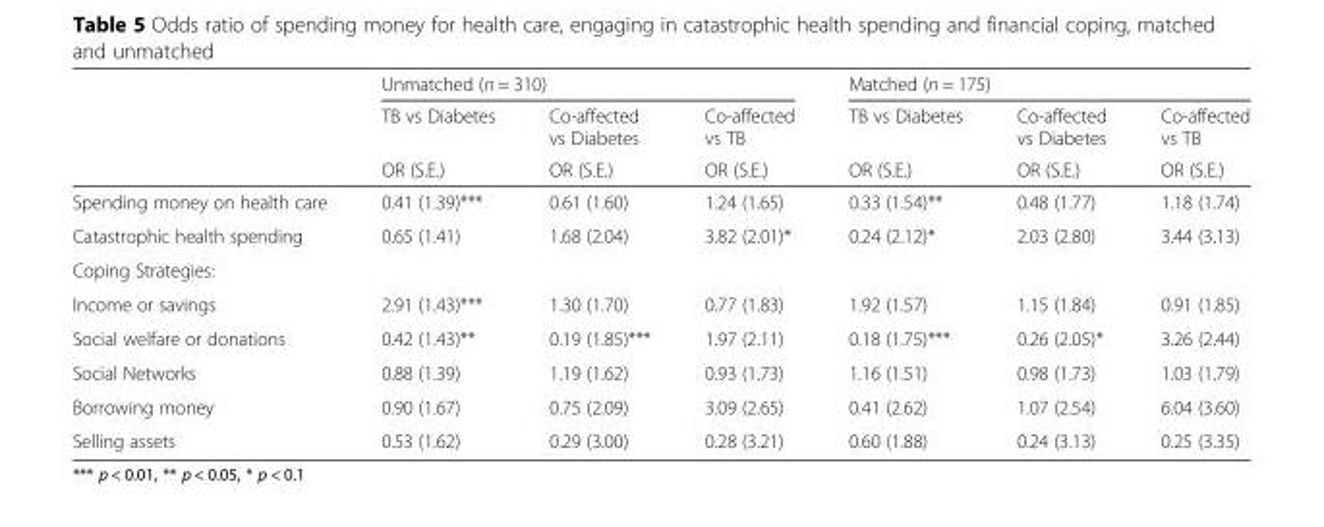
<table><thead><tr><td rowspan="3"></td><td colspan="3">Unmatched (n = 310)</td><td colspan="3">Matched (n = 175)</td></tr><tr><td rowspan="2">TB vs Diabetes OR (S.E.)</td><td rowspan="2">Co-affected vs Diabetes OR (S.E.)</td><td rowspan="2">Co-affected vs TB OR (S.E.)</td><td rowspan="2">TB vs Diabetes OR (S.E.)</td><td rowspan="2">Co-affected vs Diabetes OR (S.E.)</td><td rowspan="2">Co-affected vs TB OR (S.E.)</td></tr><tr></tr></thead><tbody><tr><td>Spending money on health care</td><td>0.41 (1.39)***</td><td>0.61 (1.60)</td><td>1.24 (1.65)</td><td>0.33 (1.54)**</td><td>0.48 (1.77)</td><td>1.18 (1.74)</td></tr><tr><td>Catastrophic health spending</td><td>0.65 (1.41)</td><td>1.68 (2.04)</td><td>3.82 (2.01)*</td><td>0.24 (2.12)*</td><td>2.03 (2.80)</td><td>3.44 (3.13)</td></tr><tr><td colspan="7">Coping Strategies:</td></tr><tr><td>Income or savings</td><td>2.91 (1.43)***</td><td>1.30 (1.70)</td><td>0.77 (1.83)</td><td>1.92 (1.57)</td><td>1.15 (1.84)</td><td>0.91 (1.85)</td></tr><tr><td>Social welfare or donations</td><td>0.42 (1.43)**</td><td>0.19 (1.85)***</td><td>1.97 (2.11)</td><td>0.18 (1.75)***</td><td>0.26 (2.05)*</td><td>3.26 (2.44)</td></tr><tr><td>Social Networks</td><td>0.88 (1.39)</td><td>1.19 (1.62)</td><td>0.93 (1.73)</td><td>1.16 (1.51)</td><td>0.98 (1.73)</td><td>1.03 (1.79)</td></tr><tr><td>Borrowing money</td><td>0.90 (1.67)</td><td>0.75 (2.09)</td><td>3.09 (2.65)</td><td>0.41 (2.62)</td><td>1.07 (2.54)</td><td>6.04 (3.60)</td></tr><tr><td>Selling assets</td><td>0.53 (1.62)</td><td>0.29 (3.00)</td><td>0.28 (3.21)</td><td>0.60 (1.88)</td><td>0.24 (3.13)</td><td>0.25 (3.35)</td></tr></tbody></table>